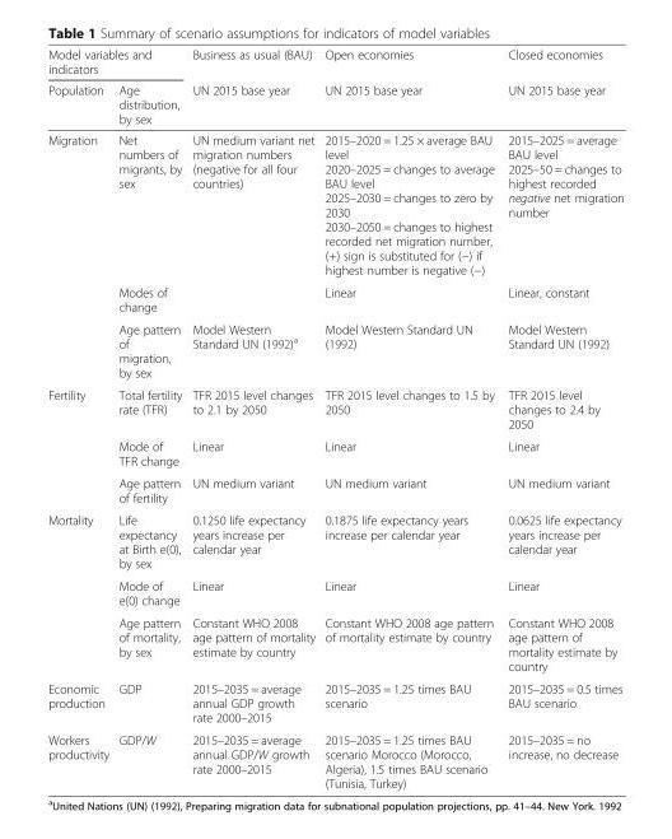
<table><thead><tr><td colspan="2">Model variables and indicators</td><td rowspan="2">Business as usual (BAU) UN 2015 base year</td><td rowspan="2">Open economies UN 2015 base year</td><td rowspan="2">Closed economies UN 2015 base year</td></tr><tr><td>Population</td><td>Age distribution, by sex</td></tr></thead><tbody><tr><td rowspan="3">Migration</td><td>Net numbers of migrants, by sex</td><td>UN medium variant net migration numbers (negative for all four countries)</td><td>2015–2020 = 1.25 × average BAU level 2020–2025 = changes to average BAU level 2025–2030 = changes to zero by 2030 2030–2050 = changes to highest recorded net migration number, (+) sign is substituted for (−) if highest number is negative (−)</td><td>2015–2025 = average BAU level 2025–50 = changes to highest recorded negative net migration number</td></tr><tr><td>Modes of change</td><td></td><td>Linear</td><td>Linear, constant</td></tr><tr><td>Age pattern of migration, by sex</td><td>Model Western Standard UN (1992)<sup>a</sup></td><td>Model Western Standard UN (1992)</td><td>Model Western Standard UN (1992)</td></tr><tr><td rowspan="3">Fertility</td><td>Total fertility rate (TFR)</td><td>TFR 2015 level changes to 2.1 by 2050</td><td>TFR 2015 level changes to 1.5 by 2050</td><td>TFR 2015 level changes to 2.4 by 2050</td></tr><tr><td>Mode of TFR change</td><td>Linear</td><td>Linear</td><td>Linear</td></tr><tr><td>Age pattern of fertility</td><td>UN medium variant</td><td>UN medium variant</td><td>UN medium variant</td></tr><tr><td rowspan="3">Mortality</td><td>Life expectancy at Birth e(0), by sex</td><td>0.1250 life expectancy years increase per calendar year</td><td>0.1875 life expectancy years increase per calendar year</td><td>0.0625 life expectancy years increase per calendar year</td></tr><tr><td>Mode of e(0) change</td><td>Linear</td><td>Linear</td><td>Linear</td></tr><tr><td>Age pattern of mortality, by sex</td><td>Constant WHO 2008 age pattern of mortality estimate by country</td><td>Constant WHO 2008 age pattern of mortality estimate by country</td><td>Constant WHO 2008 age pattern of mortality estimate by country</td></tr><tr><td>Economic production</td><td>GDP</td><td>2015–2035 = average annual GDP growth rate 2000–2015</td><td>2015–2035 = 1.25 times BAU scenario</td><td>2015–2035 = 0.5 times BAU scenario</td></tr><tr><td>Workers productivity</td><td>GDP/W</td><td>2015–2035 = average annual GDP/W growth rate 2000–2015</td><td>2015–2035 = 1.25 times BAU scenario Morocco (Morocco, Algeria), 1.5 times BAU scenario (Tunisia, Turkey)</td><td>2015–2035 = no increase, no decrease</td></tr></tbody></table>